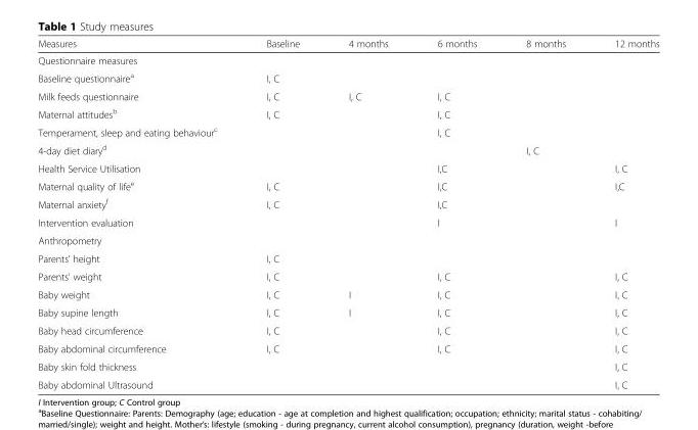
<table><thead><tr><td>Measures</td><td>Baseline</td><td>4 months</td><td>6 months</td><td>8 months</td><td>12 months</td></tr></thead><tbody><tr><td colspan="6">Questionnaire measures</td></tr><tr><td>Baseline questionnaire<sup>a</sup></td><td>I, C</td><td></td><td></td><td></td><td></td></tr><tr><td>Milk feeds questionnaire</td><td>I, C</td><td>I, C</td><td>I, C</td><td></td><td></td></tr><tr><td>Maternal attitudes<sup>b</sup></td><td>I, C</td><td></td><td>I, C</td><td></td><td></td></tr><tr><td>Temperament, sleep and eating behaviour<sup>c</sup></td><td></td><td></td><td>I, C</td><td></td><td></td></tr><tr><td>4-day diet diary<sup>d</sup></td><td></td><td></td><td></td><td>I, C</td><td></td></tr><tr><td>Health Service Utilisation</td><td></td><td></td><td>I,C</td><td></td><td>I, C</td></tr><tr><td>Maternal quality of life<sup>e</sup></td><td>I, C</td><td></td><td>I,C</td><td></td><td>I,C</td></tr><tr><td>Maternal anxiety<sup>f</sup></td><td>I, C</td><td></td><td>I,C</td><td></td><td></td></tr><tr><td>Intervention evaluation</td><td></td><td></td><td>I</td><td></td><td>I</td></tr><tr><td colspan="6">Anthropometry</td></tr><tr><td>Parents’ height</td><td>I, C</td><td></td><td></td><td></td><td></td></tr><tr><td>Parents’ weight</td><td>I, C</td><td></td><td>I, C</td><td></td><td>I, C</td></tr><tr><td>Baby weight</td><td>I, C</td><td>I</td><td>I, C</td><td></td><td>I, C</td></tr><tr><td>Baby supine length</td><td>I, C</td><td>I</td><td>I, C</td><td></td><td>I, C</td></tr><tr><td>Baby head circumference</td><td>I, C</td><td></td><td>I, C</td><td></td><td>I, C</td></tr><tr><td>Baby abdominal circumference</td><td>I, C</td><td></td><td>I, C</td><td></td><td>I, C</td></tr><tr><td>Baby skin fold thickness</td><td></td><td></td><td></td><td></td><td>I, C</td></tr><tr><td>Baby abdominal Ultrasound</td><td></td><td></td><td></td><td></td><td>I, C</td></tr></tbody></table>